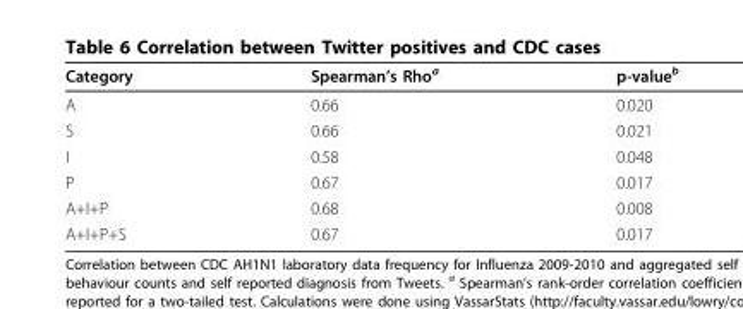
<table><thead><tr><td>Category</td><td>Spearman’s Rho<sup>a</sup></td><td>p-value<sup>b</sup></td></tr></thead><tbody><tr><td>A</td><td>0.66</td><td>0.020</td></tr><tr><td>S</td><td>0.66</td><td>0.021</td></tr><tr><td>I</td><td>0.58</td><td>0.048</td></tr><tr><td>P</td><td>0.67</td><td>0.017</td></tr><tr><td>A+I+P</td><td>0.68</td><td>0.008</td></tr><tr><td>A+I+P+S</td><td>0.67</td><td>0.017</td></tr></tbody></table>